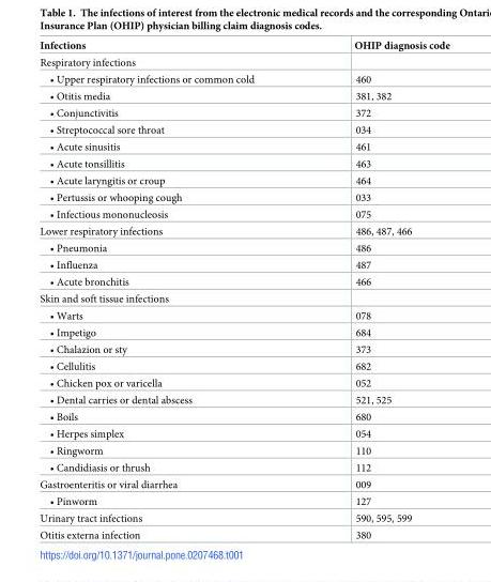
<table><thead><tr><td>Infections</td><td>OHIP diagnosis code</td></tr></thead><tbody><tr><td colspan="2">Respiratory infections</td></tr><tr><td>• Upper respiratory infections or common cold</td><td>460</td></tr><tr><td>• Otitis media</td><td>381, 382</td></tr><tr><td>• Conjunctivitis</td><td>372</td></tr><tr><td>• Streptococcal sore throat</td><td>034</td></tr><tr><td>• Acute sinusitis</td><td>461</td></tr><tr><td>• Acute tonsillitis</td><td>463</td></tr><tr><td>• Acute laryngitis or croup</td><td>464</td></tr><tr><td>• Pertussis or whooping cough</td><td>033</td></tr><tr><td>• Infectious mononucleosis</td><td>075</td></tr><tr><td>Lower respiratory infections</td><td>486, 487, 466</td></tr><tr><td>• Pneumonia</td><td>486</td></tr><tr><td>• Influenza</td><td>487</td></tr><tr><td>• Acute bronchitis</td><td>466</td></tr><tr><td colspan="2">Skin and soft tissue infections</td></tr><tr><td>• Warts</td><td>078</td></tr><tr><td>• Impetigo</td><td>684</td></tr><tr><td>• Chalazion or sty</td><td>373</td></tr><tr><td>• Cellulitis</td><td>682</td></tr><tr><td>• Chicken pox or varicella</td><td>052</td></tr><tr><td>• Dental carries or dental abscess</td><td>521, 525</td></tr><tr><td>• Boils</td><td>680</td></tr><tr><td>• Herpes simplex</td><td>054</td></tr><tr><td>• Ringworm</td><td>110</td></tr><tr><td>• Candidiasis or thrush</td><td>112</td></tr><tr><td>Gastroenteritis or viral diarrhea</td><td>009</td></tr><tr><td>• Pinworm</td><td>127</td></tr><tr><td>Urinary tract infections</td><td>590, 595, 599</td></tr><tr><td>Otitis externa infection</td><td>380</td></tr></tbody></table>